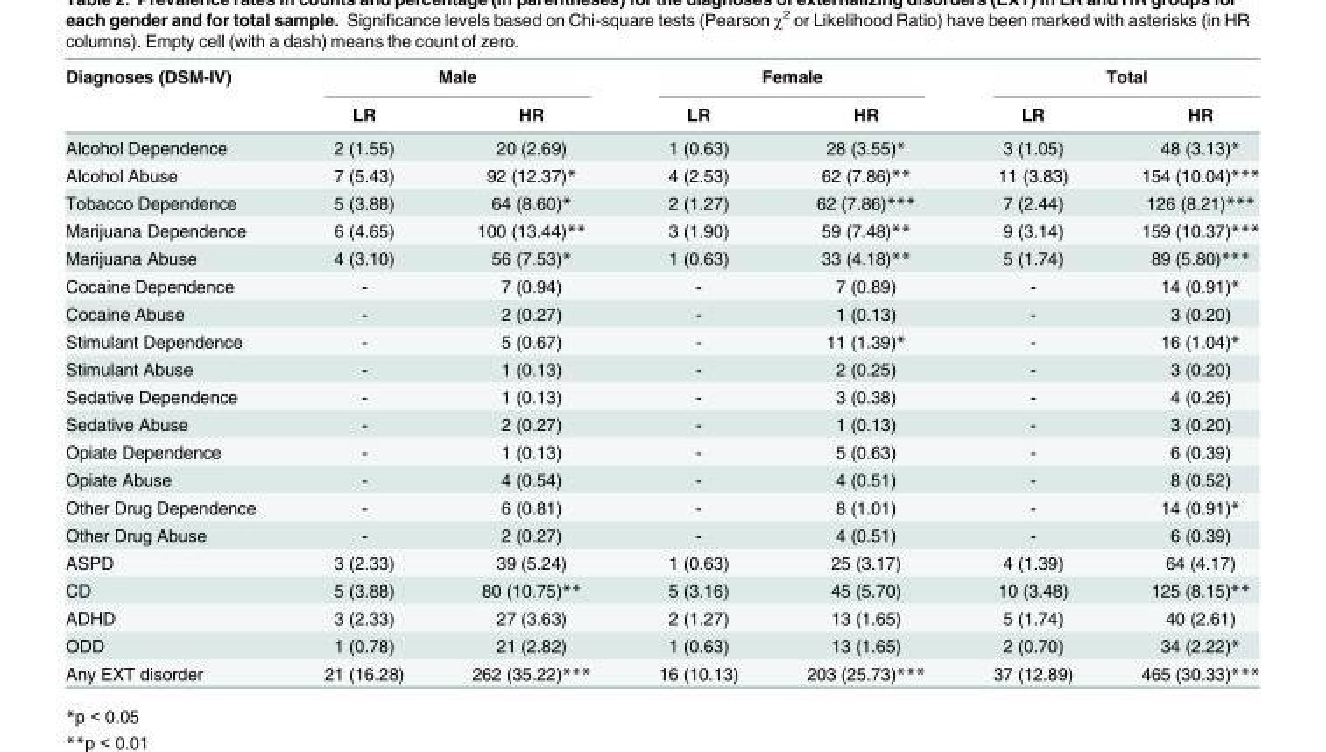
<table><thead><tr><td rowspan="2">Diagnoses (DSM-IV)</td><td colspan="2">Male</td><td colspan="2">Female</td><td colspan="2">Total</td></tr><tr><td>LR</td><td>HR</td><td>LR</td><td>HR</td><td>LR</td><td>HR</td></tr></thead><tbody><tr><td>Alcohol Dependence</td><td>2 (1.55)</td><td>20 (2.69)</td><td>1 (0.63)</td><td>28 (3.55)*</td><td>3 (1.05)</td><td>48 (3.13)*</td></tr><tr><td>Alcohol Abuse</td><td>7 (5.43)</td><td>92 (12.37)*</td><td>4 (2.53)</td><td>62 (7.86)**</td><td>11 (3.83)</td><td>154 (10.04)***</td></tr><tr><td>Tobacco Dependence</td><td>5 (3.88)</td><td>64 (8.60)*</td><td>2 (1.27)</td><td>62 (7.86)***</td><td>7 (2.44)</td><td>126 (8.21)***</td></tr><tr><td>Marijuana Dependence</td><td>6 (4.65)</td><td>100 (13.44)**</td><td>3 (1.90)</td><td>59 (7.48)**</td><td>9 (3.14)</td><td>159 (10.37)***</td></tr><tr><td>Marijuana Abuse</td><td>4 (3.10)</td><td>56 (7.53)*</td><td>1 (0.63)</td><td>33 (4.18)**</td><td>5 (1.74)</td><td>89 (5.80)***</td></tr><tr><td>Cocaine Dependence</td><td>-</td><td>7 (0.94)</td><td>-</td><td>7 (0.89)</td><td>-</td><td>14 (0.91)*</td></tr><tr><td>Cocaine Abuse</td><td>-</td><td>2 (0.27)</td><td>-</td><td>1 (0.13)</td><td>-</td><td>3 (0.20)</td></tr><tr><td>Stimulant Dependence</td><td>-</td><td>5 (0.67)</td><td>-</td><td>11 (1.39)*</td><td>-</td><td>16 (1.04)*</td></tr><tr><td>Stimulant Abuse</td><td>-</td><td>1 (0.13)</td><td>-</td><td>2 (0.25)</td><td>-</td><td>3 (0.20)</td></tr><tr><td>Sedative Dependence</td><td>-</td><td>1 (0.13)</td><td>-</td><td>3 (0.38)</td><td>-</td><td>4 (0.26)</td></tr><tr><td>Sedative Abuse</td><td>-</td><td>2 (0.27)</td><td>-</td><td>1 (0.13)</td><td>-</td><td>3 (0.20)</td></tr><tr><td>Opiate Dependence</td><td>-</td><td>1 (0.13)</td><td>-</td><td>5 (0.63)</td><td>-</td><td>6 (0.39)</td></tr><tr><td>Opiate Abuse</td><td>-</td><td>4 (0.54)</td><td>-</td><td>4 (0.51)</td><td>-</td><td>8 (0.52)</td></tr><tr><td>Other Drug Dependence</td><td>-</td><td>6 (0.81)</td><td>-</td><td>8 (1.01)</td><td>-</td><td>14 (0.91)*</td></tr><tr><td>Other Drug Abuse</td><td>-</td><td>2 (0.27)</td><td>-</td><td>4 (0.51)</td><td>-</td><td>6 (0.39)</td></tr><tr><td>ASPD</td><td>3 (2.33)</td><td>39 (5.24)</td><td>1 (0.63)</td><td>25 (3.17)</td><td>4 (1.39)</td><td>64 (4.17)</td></tr><tr><td>CD</td><td>5 (3.88)</td><td>80 (10.75)**</td><td>5 (3.16)</td><td>45 (5.70)</td><td>10 (3.48)</td><td>125 (8.15)**</td></tr><tr><td>ADHD</td><td>3 (2.33)</td><td>27 (3.63)</td><td>2 (1.27)</td><td>13 (1.65)</td><td>5 (1.74)</td><td>40 (2.61)</td></tr><tr><td>ODD</td><td>1 (0.78)</td><td>21 (2.82)</td><td>1 (0.63)</td><td>13 (1.65)</td><td>2 (0.70)</td><td>34 (2.22)*</td></tr><tr><td>Any EXT disorder</td><td>21 (16.28)</td><td>262 (35.22)***</td><td>16 (10.13)</td><td>203 (25.73)***</td><td>37 (12.89)</td><td>465 (30.33)***</td></tr></tbody></table>